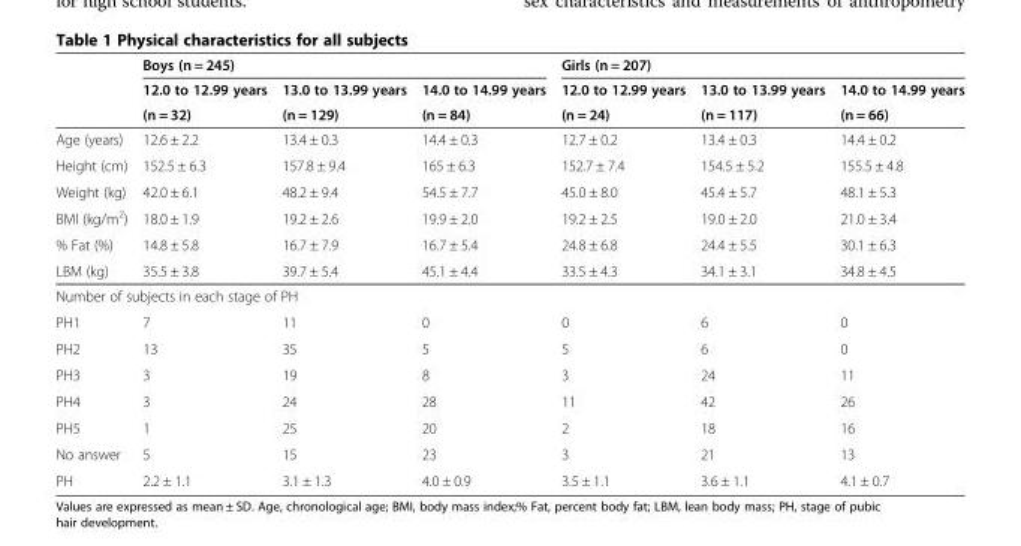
<table><thead><tr><td rowspan="3"></td><td colspan="3">Boys (n = 245)</td><td colspan="3">Girls (n = 207)</td></tr><tr><td rowspan="2">12.0 to 12.99 years (n = 32)</td><td rowspan="2">13.0 to 13.99 years (n = 129)</td><td rowspan="2">14.0 to 14.99 years (n = 84)</td><td rowspan="2">12.0 to 12.99 years (n = 24)</td><td rowspan="2">13.0 to 13.99 years (n = 117)</td><td rowspan="2">14.0 to 14.99 years (n = 66)</td></tr><tr></tr></thead><tbody><tr><td>Age (years)</td><td>12.6 ± 2.2</td><td>13.4 ± 0.3</td><td>14.4 ± 0.3</td><td>12.7 ± 0.2</td><td>13.4 ± 0.3</td><td>14.4 ± 0.2</td></tr><tr><td>Height (cm)</td><td>152.5 ± 6.3</td><td>157.8 ± 9.4</td><td>165 ± 6.3</td><td>152.7 ± 7.4</td><td>154.5 ± 5.2</td><td>155.5 ± 4.8</td></tr><tr><td>Weight (kg)</td><td>42.0 ± 6.1</td><td>48.2 ± 9.4</td><td>54.5 ± 7.7</td><td>45.0 ± 8.0</td><td>45.4 ± 5.7</td><td>48.1 ± 5.3</td></tr><tr><td>BMI (kg/m<sup>2</sup>)</td><td>18.0 ± 1.9</td><td>19.2 ± 2.6</td><td>19.9 ± 2.0</td><td>19.2 ± 2.5</td><td>19.0 ± 2.0</td><td>21.0 ± 3.4</td></tr><tr><td>% Fat (%)</td><td>14.8 ± 5.8</td><td>16.7 ± 7.9</td><td>16.7 ± 5.4</td><td>24.8 ± 6.8</td><td>24.4 ± 5.5</td><td>30.1 ± 6.3</td></tr><tr><td>LBM (kg)</td><td>35.5 ± 3.8</td><td>39.7 ± 5.4</td><td>45.1 ± 4.4</td><td>33.5 ± 4.3</td><td>34.1 ± 3.1</td><td>34.8 ± 4.5</td></tr><tr><td colspan="7">Number of subjects in each stage of PH</td></tr><tr><td>PH1</td><td>7</td><td>11</td><td>0</td><td>0</td><td>6</td><td>0</td></tr><tr><td>PH2</td><td>13</td><td>35</td><td>5</td><td>5</td><td>6</td><td>0</td></tr><tr><td>PH3</td><td>3</td><td>19</td><td>8</td><td>3</td><td>24</td><td>11</td></tr><tr><td>PH4</td><td>3</td><td>24</td><td>28</td><td>11</td><td>42</td><td>26</td></tr><tr><td>PH5</td><td>1</td><td>25</td><td>20</td><td>2</td><td>18</td><td>16</td></tr><tr><td>No answer</td><td>5</td><td>15</td><td>23</td><td>3</td><td>21</td><td>13</td></tr><tr><td>PH</td><td>2.2 ± 1.1</td><td>3.1 ± 1.3</td><td>4.0 ± 0.9</td><td>3.5 ± 1.1</td><td>3.6 ± 1.1</td><td>4.1 ± 0.7</td></tr></tbody></table>